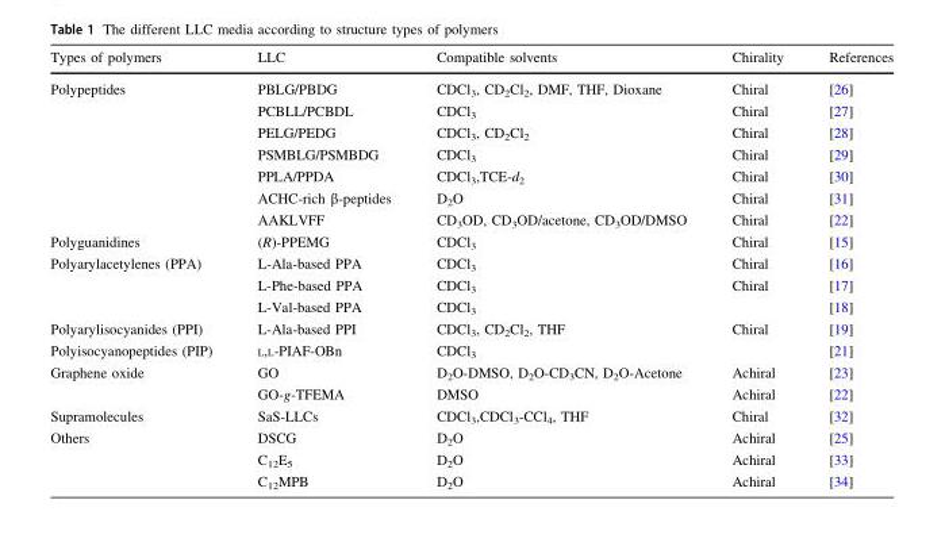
<table><thead><tr><td>Types of polymers</td><td>LLC</td><td>Compatible solvents</td><td>Chirality</td><td>References</td></tr></thead><tbody><tr><td rowspan="7">Polypeptides</td><td>PBLG/PBDG</td><td>CDCl<sub>3</sub>, CD<sub>2</sub>Cl<sub>2</sub>, DMF, THF, Dioxane</td><td>Chiral</td><td>[26]</td></tr><tr><td>PCBLL/PCBDL</td><td>CDCl<sub>3</sub></td><td>Chiral</td><td>[27]</td></tr><tr><td>PELG/PEDG</td><td>CDCl<sub>3</sub>, CD<sub>2</sub>Cl<sub>2</sub></td><td>Chiral</td><td>[28]</td></tr><tr><td>PSMBLG/PSMBDG</td><td>CDCl<sub>3</sub></td><td>Chiral</td><td>[29]</td></tr><tr><td>PPLA/PPDA</td><td>CDCl<sub>3</sub>,TCE-d<sub>2</sub></td><td>Chiral</td><td>[30]</td></tr><tr><td>ACHC-rich β-peptides</td><td>D<sub>2</sub>O</td><td>Chiral</td><td>[31]</td></tr><tr><td>AAKLVFF</td><td>CD<sub>3</sub>OD, CD<sub>3</sub>OD/acetone, CD<sub>3</sub>OD/DMSO</td><td>Chiral</td><td>[22]</td></tr><tr><td>Polyguanidines</td><td>(R)-PPEMG</td><td>CDCl<sub>3</sub></td><td>Chiral</td><td>[15]</td></tr><tr><td rowspan="3">Polyarylacetylenes (PPA)</td><td>L-Ala-based PPA</td><td>CDCl<sub>3</sub></td><td>Chiral</td><td>[16]</td></tr><tr><td>L-Phe-based PPA</td><td>CDCl<sub>3</sub></td><td>Chiral</td><td>[17]</td></tr><tr><td>L-Val-based PPA</td><td>CDCl<sub>3</sub></td><td></td><td>[18]</td></tr><tr><td>Polyarylisocyanides (PPI)</td><td>L-Ala-based PPI</td><td>CDCl<sub>3</sub>, CD<sub>2</sub>Cl<sub>2</sub>, THF</td><td>Chiral</td><td>[19]</td></tr><tr><td>Polyisocyanopeptides (PIP)</td><td>L,L-PIAF-OBn</td><td>CDCl<sub>3</sub></td><td></td><td>[21]</td></tr><tr><td rowspan="2">Graphene oxide</td><td>GO</td><td>D<sub>2</sub>O-DMSO, D<sub>2</sub>O-CD<sub>3</sub>CN, D<sub>2</sub>O-Acetone</td><td>Achiral</td><td>[23]</td></tr><tr><td>GO-g-TFEMA</td><td>DMSO</td><td>Achiral</td><td>[22]</td></tr><tr><td>Supramolecules</td><td>SaS-LLCs</td><td>CDCl<sub>3</sub>,CDCl<sub>3</sub>-CCl<sub>4</sub>, THF</td><td>Chiral</td><td>[32]</td></tr><tr><td rowspan="3">Others</td><td>DSCG</td><td>D<sub>2</sub>O</td><td>Achiral</td><td>[25]</td></tr><tr><td>C<sub>12</sub>E<sub>5</sub></td><td>D<sub>2</sub>O</td><td>Achiral</td><td>[33]</td></tr><tr><td>C<sub>12</sub>MPB</td><td>D<sub>2</sub>O</td><td>Achiral</td><td>[34]</td></tr></tbody></table>